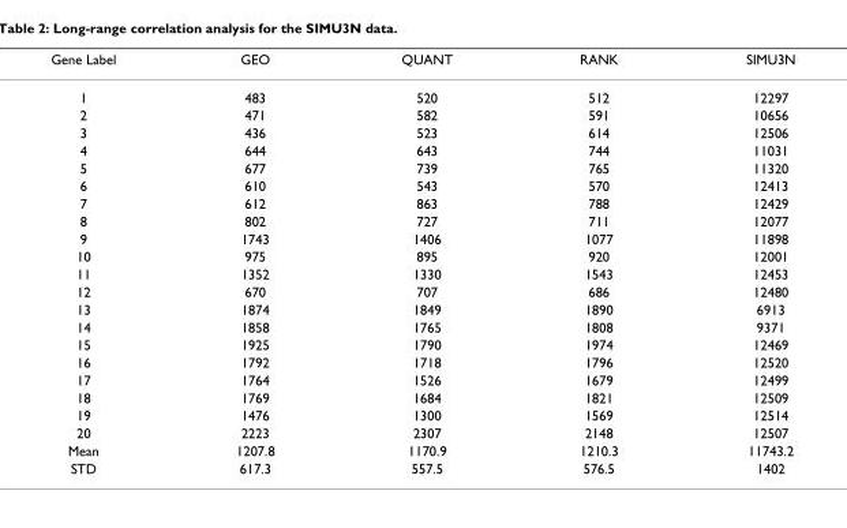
<table><thead><tr><td>Gene Label</td><td>GEO</td><td>QUANT</td><td>RANK</td><td>SIMU3N</td></tr></thead><tbody><tr><td>1</td><td>483</td><td>520</td><td>512</td><td>12297</td></tr><tr><td>2</td><td>471</td><td>582</td><td>591</td><td>10656</td></tr><tr><td>3</td><td>436</td><td>523</td><td>614</td><td>12506</td></tr><tr><td>4</td><td>644</td><td>643</td><td>744</td><td>11031</td></tr><tr><td>5</td><td>677</td><td>739</td><td>765</td><td>11320</td></tr><tr><td>6</td><td>610</td><td>543</td><td>570</td><td>12413</td></tr><tr><td>7</td><td>612</td><td>863</td><td>788</td><td>12429</td></tr><tr><td>8</td><td>802</td><td>727</td><td>711</td><td>12077</td></tr><tr><td>9</td><td>1743</td><td>1406</td><td>1077</td><td>11898</td></tr><tr><td>10</td><td>975</td><td>895</td><td>920</td><td>12001</td></tr><tr><td>11</td><td>1352</td><td>1330</td><td>1543</td><td>12453</td></tr><tr><td>12</td><td>670</td><td>707</td><td>686</td><td>12480</td></tr><tr><td>13</td><td>1874</td><td>1849</td><td>1890</td><td>6913</td></tr><tr><td>14</td><td>1858</td><td>1765</td><td>1808</td><td>9371</td></tr><tr><td>15</td><td>1925</td><td>1790</td><td>1974</td><td>12469</td></tr><tr><td>16</td><td>1792</td><td>1718</td><td>1796</td><td>12520</td></tr><tr><td>17</td><td>1764</td><td>1526</td><td>1679</td><td>12499</td></tr><tr><td>18</td><td>1769</td><td>1684</td><td>1821</td><td>12509</td></tr><tr><td>19</td><td>1476</td><td>1300</td><td>1569</td><td>12514</td></tr><tr><td>20</td><td>2223</td><td>2307</td><td>2148</td><td>12507</td></tr><tr><td>Mean</td><td>1207.8</td><td>1170.9</td><td>1210.3</td><td>11743.2</td></tr><tr><td>STD</td><td>617.3</td><td>557.5</td><td>576.5</td><td>1402</td></tr></tbody></table>